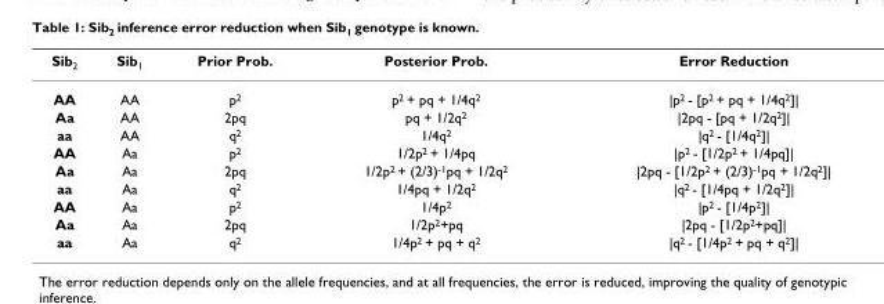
<table><thead><tr><td>Sib<sub>2</sub></td><td>Sib<sub>1</sub></td><td>Prior Prob.</td><td>Posterior Prob.</td><td>Error Reduction</td></tr></thead><tbody><tr><td>AA</td><td>AA</td><td>p<sup>2</sup></td><td>p<sup>2</sup> + pq + 1/4q<sup>2</sup></td><td>|p<sup>2</sup> - [p<sup>2</sup> + pq + 1/4q<sup>2</sup>]|</td></tr><tr><td>Aa</td><td>AA</td><td>2pq</td><td>pq + 1/2q<sup>2</sup></td><td>|2pq - [pq + 1/2q<sup>2</sup>]|</td></tr><tr><td>aa</td><td>AA</td><td>q<sup>2</sup></td><td>1/4q<sup>2</sup></td><td>|q<sup>2</sup> - [1/4q<sup>2</sup>]|</td></tr><tr><td>AA</td><td>Aa</td><td>p<sup>2</sup></td><td>1/2p<sup>2</sup> + 1/4pq</td><td>|p<sup>2</sup> - [1/2p<sup>2</sup> + 1/4pq]|</td></tr><tr><td>Aa</td><td>Aa</td><td>2pq</td><td>1/2p<sup>2</sup> + (2/3)<sup>-1</sup>pq + 1/2q<sup>2</sup></td><td>|2pq - [1/2p<sup>2</sup> + (2/3)<sup>-1</sup>pq + 1/2q<sup>2</sup>]|</td></tr><tr><td>aa</td><td>Aa</td><td>q<sup>2</sup></td><td>1/4pq + 1/2q<sup>2</sup></td><td>|q<sup>2</sup> - [1/4pq + 1/2q<sup>2</sup>]|</td></tr><tr><td>AA</td><td>Aa</td><td>p<sup>2</sup></td><td>1/4p<sup>2</sup></td><td>|p<sup>2</sup> - [1/4p<sup>2</sup>]|</td></tr><tr><td>Aa</td><td>Aa</td><td>2pq</td><td>1/2p<sup>2</sup>+pq</td><td>|2pq - [1/2p<sup>2</sup>+pq]|</td></tr><tr><td>aa</td><td>Aa</td><td>q<sup>2</sup></td><td>1/4p<sup>2</sup> + pq + q<sup>2</sup></td><td>|q<sup>2</sup> - [1/4p<sup>2</sup> + pq + q<sup>2</sup>]|</td></tr></tbody></table>